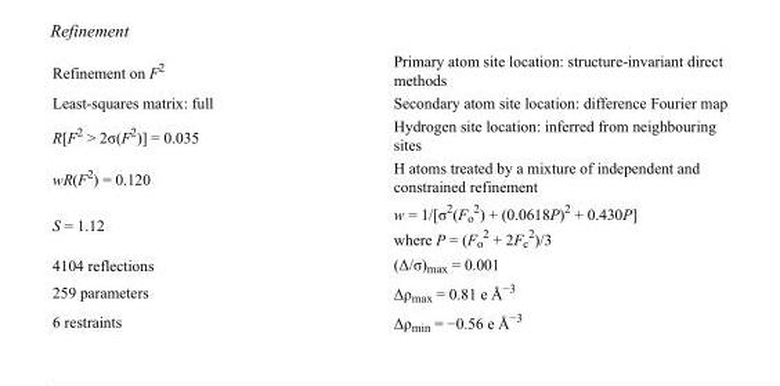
<table><tbody><tr><td>Refinement on F<sup>2</sup></td><td>Primary atom site location: structure-invariant direct methods</td></tr><tr><td>Least-squares matrix: full</td><td>Secondary atom site location: difference Fourier map</td></tr><tr><td>R[F<sup>2</sup> &gt; 2σ(F<sup>2</sup>)] = 0.035</td><td>Hydrogen site location: inferred from neighbouring sites</td></tr><tr><td>wR(F<sup>2</sup>) = 0.120</td><td>H atoms treated by a mixture of independent and constrained refinement</td></tr><tr><td>S = 1.12</td><td>w = 1/[σ<sup>2</sup>(F<sub>o</sub> <sup>2</sup>) + (0.0618P)<sup>2</sup> + 0.430P] where P = (F<sub>o</sub> <sup>2</sup> + 2F<sub>c</sub> <sup>2</sup>)/3</td></tr><tr><td>4104 reflections</td><td>(Δ/σ)<sub>max</sub> = 0.001</td></tr><tr><td>259 parameters</td><td>Δρ<sub>max</sub> = 0.81 e Å<sup>−3</sup></td></tr><tr><td>6 restraints</td><td>Δρ<sub>min</sub> = −0.56 e Å<sup>−3</sup></td></tr></tbody></table>